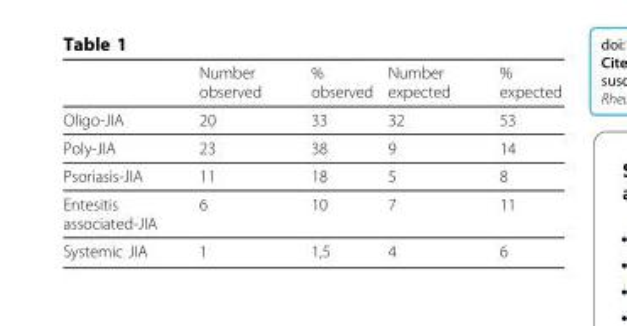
<table><thead><tr><td></td><td>Number observed</td><td>% observed</td><td>Number expected</td><td>% expected</td></tr></thead><tbody><tr><td>Oligo-JIA</td><td>20</td><td>33</td><td>32</td><td>53</td></tr><tr><td>Poly-JIA</td><td>23</td><td>38</td><td>9</td><td>14</td></tr><tr><td>Psoriasis-JIA</td><td>11</td><td>18</td><td>5</td><td>8</td></tr><tr><td>Entesitis associated-JIA</td><td>6</td><td>10</td><td>7</td><td>11</td></tr><tr><td>Systemic JIA</td><td>1</td><td>1,5</td><td>4</td><td>6</td></tr></tbody></table>